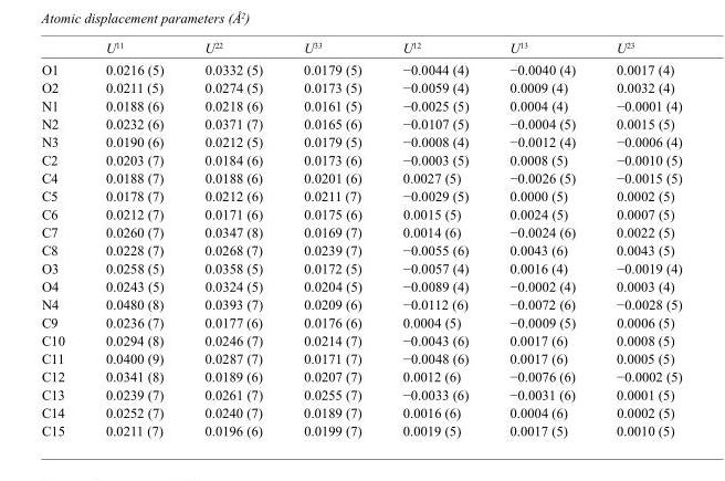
<table><thead><tr><td></td><td>U<sup>11</sup></td><td>U<sup>22</sup></td><td>U<sup>33</sup></td><td>U<sup>12</sup></td><td>U<sup>13</sup></td><td>U<sup>23</sup></td></tr></thead><tbody><tr><td>O1</td><td>0.0216 (5)</td><td>0.0332 (5)</td><td>0.0179 (5)</td><td>−0.0044 (4)</td><td>−0.0040 (4)</td><td>0.0017 (4)</td></tr><tr><td>O2</td><td>0.0211 (5)</td><td>0.0274 (5)</td><td>0.0173 (5)</td><td>−0.0059 (4)</td><td>0.0009 (4)</td><td>0.0032 (4)</td></tr><tr><td>N1</td><td>0.0188 (6)</td><td>0.0218 (6)</td><td>0.0161 (5)</td><td>−0.0025 (5)</td><td>0.0004 (4)</td><td>−0.0001 (4)</td></tr><tr><td>N2</td><td>0.0232 (6)</td><td>0.0371 (7)</td><td>0.0165 (6)</td><td>−0.0107 (5)</td><td>−0.0004 (5)</td><td>0.0015 (5)</td></tr><tr><td>N3</td><td>0.0190 (6)</td><td>0.0212 (5)</td><td>0.0179 (5)</td><td>−0.0008 (4)</td><td>−0.0012 (4)</td><td>−0.0006 (4)</td></tr><tr><td>C2</td><td>0.0203 (7)</td><td>0.0184 (6)</td><td>0.0173 (6)</td><td>−0.0003 (5)</td><td>0.0008 (5)</td><td>−0.0010 (5)</td></tr><tr><td>C4</td><td>0.0188 (7)</td><td>0.0188 (6)</td><td>0.0201 (6)</td><td>0.0027 (5)</td><td>−0.0026 (5)</td><td>−0.0015 (5)</td></tr><tr><td>C5</td><td>0.0178 (7)</td><td>0.0212 (6)</td><td>0.0211 (7)</td><td>−0.0029 (5)</td><td>0.0000 (5)</td><td>0.0002 (5)</td></tr><tr><td>C6</td><td>0.0212 (7)</td><td>0.0171 (6)</td><td>0.0175 (6)</td><td>0.0015 (5)</td><td>0.0024 (5)</td><td>0.0007 (5)</td></tr><tr><td>C7</td><td>0.0260 (7)</td><td>0.0347 (8)</td><td>0.0169 (7)</td><td>0.0014 (6)</td><td>−0.0024 (6)</td><td>0.0022 (5)</td></tr><tr><td>C8</td><td>0.0228 (7)</td><td>0.0268 (7)</td><td>0.0239 (7)</td><td>−0.0055 (6)</td><td>0.0043 (6)</td><td>0.0043 (5)</td></tr><tr><td>O3</td><td>0.0258 (5)</td><td>0.0358 (5)</td><td>0.0172 (5)</td><td>−0.0057 (4)</td><td>0.0016 (4)</td><td>−0.0019 (4)</td></tr><tr><td>O4</td><td>0.0243 (5)</td><td>0.0324 (5)</td><td>0.0204 (5)</td><td>−0.0089 (4)</td><td>−0.0002 (4)</td><td>0.0003 (4)</td></tr><tr><td>N4</td><td>0.0480 (8)</td><td>0.0393 (7)</td><td>0.0209 (6)</td><td>−0.0112 (6)</td><td>−0.0072 (6)</td><td>−0.0028 (5)</td></tr><tr><td>C9</td><td>0.0236 (7)</td><td>0.0177 (6)</td><td>0.0176 (6)</td><td>0.0004 (5)</td><td>−0.0009 (5)</td><td>0.0006 (5)</td></tr><tr><td>C10</td><td>0.0294 (8)</td><td>0.0246 (7)</td><td>0.0214 (7)</td><td>−0.0043 (6)</td><td>0.0017 (6)</td><td>0.0008 (5)</td></tr><tr><td>C11</td><td>0.0400 (9)</td><td>0.0287 (7)</td><td>0.0171 (7)</td><td>−0.0048 (6)</td><td>0.0017 (6)</td><td>0.0005 (5)</td></tr><tr><td>C12</td><td>0.0341 (8)</td><td>0.0189 (6)</td><td>0.0207 (7)</td><td>0.0012 (6)</td><td>−0.0076 (6)</td><td>−0.0002 (5)</td></tr><tr><td>C13</td><td>0.0239 (7)</td><td>0.0261 (7)</td><td>0.0255 (7)</td><td>−0.0033 (6)</td><td>−0.0031 (6)</td><td>0.0001 (5)</td></tr><tr><td>C14</td><td>0.0252 (7)</td><td>0.0240 (7)</td><td>0.0189 (7)</td><td>0.0016 (6)</td><td>0.0004 (6)</td><td>0.0002 (5)</td></tr><tr><td>C15</td><td>0.0211 (7)</td><td>0.0196 (6)</td><td>0.0199 (7)</td><td>0.0019 (5)</td><td>0.0017 (5)</td><td>0.0010 (5)</td></tr></tbody></table>